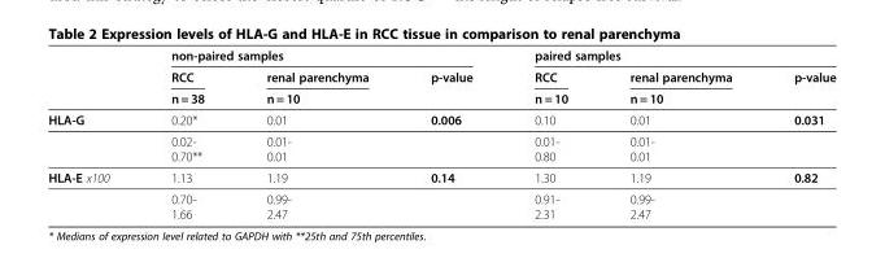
<table><thead><tr><td rowspan="2"></td><td colspan="3">non-paired samples</td><td colspan="3">paired samples</td></tr><tr><td>RCC</td><td>renal parenchyma</td><td>p-value</td><td>RCC</td><td>renal parenchyma</td><td>p-value</td></tr></thead><tbody><tr><td></td><td>n = 38</td><td>n = 10</td><td></td><td>n = 10</td><td>n = 10</td><td></td></tr><tr><td rowspan="2">HLA-G</td><td>0.20*</td><td>0.01</td><td>0.006</td><td>0.10</td><td>0.01</td><td>0.031</td></tr><tr><td>0.02- 0.70**</td><td>0.01- 0.01</td><td></td><td>0.01- 0.80</td><td>0.01- 0.01</td><td></td></tr><tr><td rowspan="2">HLA-E x100</td><td>1.13</td><td>1.19</td><td>0.14</td><td>1.30</td><td>1.19</td><td>0.82</td></tr><tr><td>0.70- 1.66</td><td>0.99- 2.47</td><td></td><td>0.91- 2.31</td><td>0.99- 2.47</td><td></td></tr></tbody></table>